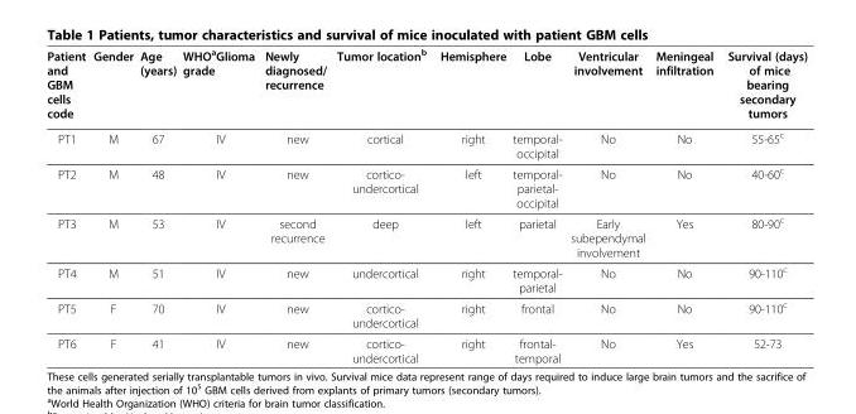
<table><thead><tr><td>Patient and GBM cells code</td><td>Gender</td><td>Age (years)</td><td>WHO<sup>a</sup>Glioma grade</td><td>Newly diagnosed/ recurrence</td><td>Tumor location<sup>b</sup></td><td>Hemisphere</td><td>Lobe</td><td>Ventricular involvement</td><td>Meningeal infiltration</td><td>Survival (days) of mice bearing secondary tumors</td></tr></thead><tbody><tr><td>PT1</td><td>M</td><td>67</td><td>IV</td><td>new</td><td>cortical</td><td>right</td><td>temporal- occipital</td><td>No</td><td>No</td><td>55-65<sup>c</sup></td></tr><tr><td>PT2</td><td>M</td><td>48</td><td>IV</td><td>new</td><td>cortico- undercortical</td><td>left</td><td>temporal- parietal- occipital</td><td>No</td><td>No</td><td>40-60<sup>c</sup></td></tr><tr><td>PT3</td><td>M</td><td>53</td><td>IV</td><td>second recurrence</td><td>deep</td><td>left</td><td>parietal</td><td>Early subependymal involvement</td><td>Yes</td><td>80-90<sup>c</sup></td></tr><tr><td>PT4</td><td>M</td><td>51</td><td>IV</td><td>new</td><td>undercortical</td><td>right</td><td>temporal- parietal</td><td>No</td><td>No</td><td>90-110<sup>c</sup></td></tr><tr><td>PT5</td><td>F</td><td>70</td><td>IV</td><td>new</td><td>cortico- undercortical</td><td>right</td><td>frontal</td><td>No</td><td>No</td><td>90-110<sup>c</sup></td></tr><tr><td>PT6</td><td>F</td><td>41</td><td>IV</td><td>new</td><td>cortico- undercortical</td><td>right</td><td>frontal- temporal</td><td>No</td><td>Yes</td><td>52-73</td></tr></tbody></table>